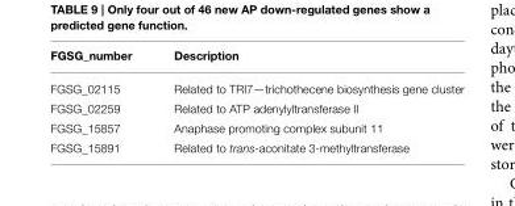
<table><thead><tr><td>FGSG_number</td><td>Description</td></tr></thead><tbody><tr><td>FGSG_02115</td><td>Related to TRI7—trichothecene biosynthesis gene cluster</td></tr><tr><td>FGSG_02259</td><td>Related to ATP adenylyltransferase II</td></tr><tr><td>FGSG_15857</td><td>Anaphase promoting complex subunit 11</td></tr><tr><td>FGSG_15891</td><td>Related to trans-aconitate 3-methyltransferase</td></tr></tbody></table>